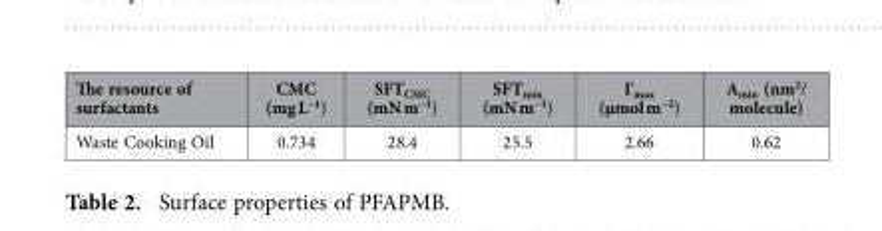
<table><thead><tr><td>The resource of surfactants</td><td>CMC (mg L<sup>−1</sup>)</td><td>SFT<sub>CMC</sub> (mN m<sup>−1</sup>)</td><td>SFT<sub>min</sub> (mN m<sup>−1</sup>)</td><td>Γ<sub>max</sub> (μmol m<sup>−2</sup>)</td><td>A<sub>min</sub> (nm<sup>2</sup>/ molecule)</td></tr></thead><tbody><tr><td>Waste Cooking Oil</td><td>0.734</td><td>28.4</td><td>25.5</td><td>2.66</td><td>0.62</td></tr></tbody></table>